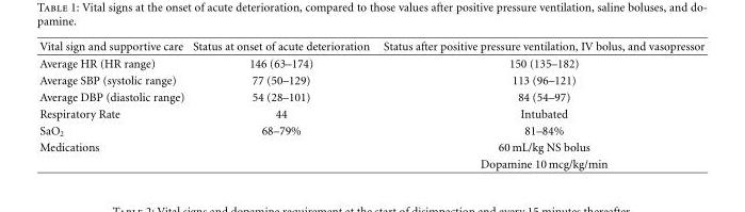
<table><thead><tr><td>Vital sign and supportive care</td><td>Status at onset of acute deterioration</td><td>Status after positive pressure ventilation, IV bolus, and vasopressor</td></tr></thead><tbody><tr><td>Average HR (HR range)</td><td>146 (63–174)</td><td>150 (135–182)</td></tr><tr><td>Average SBP (systolic range)</td><td>77 (50–129)</td><td>113 (96–121)</td></tr><tr><td>Average DBP (diastolic range)</td><td>54 (28–101)</td><td>84 (54–97)</td></tr><tr><td>Respiratory Rate</td><td>44</td><td>Intubated</td></tr><tr><td>SaO<sub>2</sub></td><td>68–79%</td><td>81–84%</td></tr><tr><td rowspan="2">Medications</td><td></td><td>60 mL/kg NS bolus</td></tr><tr><td></td><td>Dopamine 10 mcg/kg/min</td></tr></tbody></table>